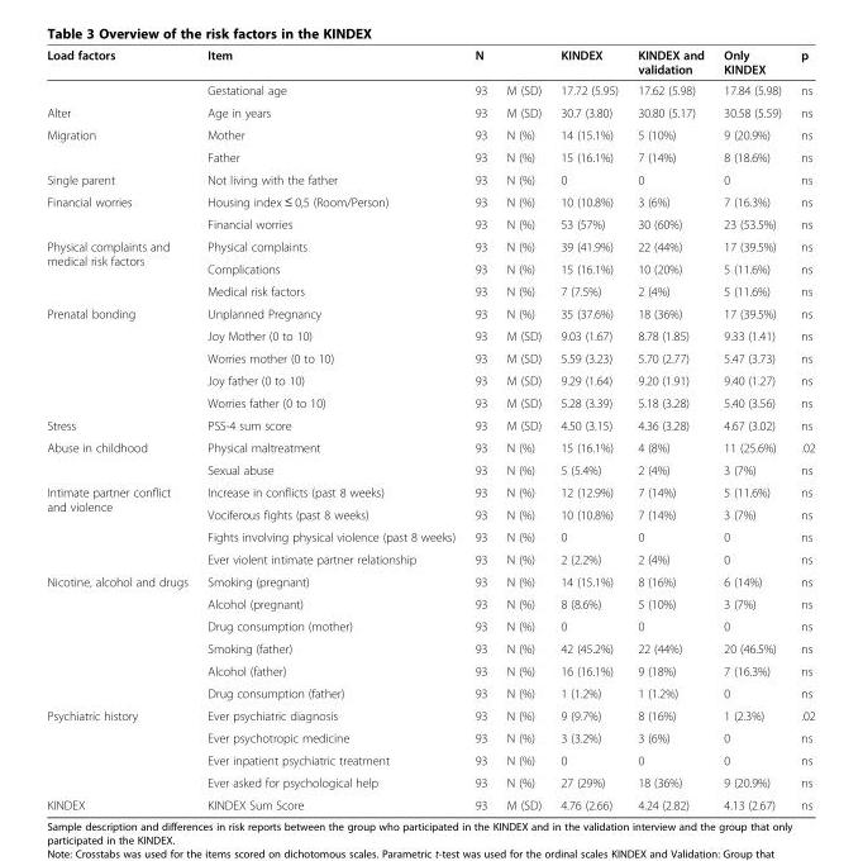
<table><thead><tr><td>Load factors</td><td>Item</td><td>N</td><td></td><td>KINDEX</td><td>KINDEX and validation</td><td>Only KINDEX</td><td>p</td></tr></thead><tbody><tr><td></td><td>Gestational age</td><td>93</td><td>M (SD)</td><td>17.72 (5.95)</td><td>17.62 (5.98)</td><td>17.84 (5.98)</td><td>ns</td></tr><tr><td>Alter</td><td>Age in years</td><td>93</td><td>M (SD)</td><td>30.7 (3.80)</td><td>30.80 (5.17)</td><td>30.58 (5.59)</td><td>ns</td></tr><tr><td rowspan="2">Migration</td><td>Mother</td><td>93</td><td>N (%)</td><td>14 (15.1%)</td><td>5 (10%)</td><td>9 (20.9%)</td><td>ns</td></tr><tr><td>Father</td><td>93</td><td>N (%)</td><td>15 (16.1%)</td><td>7 (14%)</td><td>8 (18.6%)</td><td>ns</td></tr><tr><td>Single parent</td><td>Not living with the father</td><td>93</td><td>N (%)</td><td>0</td><td>0</td><td>0</td><td>ns</td></tr><tr><td rowspan="2">Financial worries</td><td>Housing index ≤ 0,5 (Room/Person)</td><td>93</td><td>N (%)</td><td>10 (10.8%)</td><td>3 (6%)</td><td>7 (16.3%)</td><td>ns</td></tr><tr><td>Financial worries</td><td>93</td><td>N (%)</td><td>53 (57%)</td><td>30 (60%)</td><td>23 (53.5%)</td><td>ns</td></tr><tr><td rowspan="3">Physical complaints and medical risk factors</td><td>Physical complaints</td><td>93</td><td>N (%)</td><td>39 (41.9%)</td><td>22 (44%)</td><td>17 (39.5%)</td><td>ns</td></tr><tr><td>Complications</td><td>93</td><td>N (%)</td><td>15 (16.1%)</td><td>10 (20%)</td><td>5 (11.6%)</td><td>ns</td></tr><tr><td>Medical risk factors</td><td>93</td><td>N (%)</td><td>7 (7.5%)</td><td>2 (4%)</td><td>5 (11.6%)</td><td>ns</td></tr><tr><td rowspan="5">Prenatal bonding</td><td>Unplanned Pregnancy</td><td>93</td><td>N (%)</td><td>35 (37.6%)</td><td>18 (36%)</td><td>17 (39.5%)</td><td>ns</td></tr><tr><td>Joy Mother (0 to 10)</td><td>93</td><td>M (SD)</td><td>9.03 (1.67)</td><td>8.78 (1.85)</td><td>9.33 (1.41)</td><td>ns</td></tr><tr><td>Worries mother (0 to 10)</td><td>93</td><td>M (SD)</td><td>5.59 (3.23)</td><td>5.70 (2.77)</td><td>5.47 (3.73)</td><td>ns</td></tr><tr><td>Joy father (0 to 10)</td><td>93</td><td>M (SD)</td><td>9.29 (1.64)</td><td>9.20 (1.91)</td><td>9.40 (1.27)</td><td>ns</td></tr><tr><td>Worries father (0 to 10)</td><td>93</td><td>M (SD)</td><td>5.28 (3.39)</td><td>5.18 (3.28)</td><td>5.40 (3.56)</td><td>ns</td></tr><tr><td>Stress</td><td>PSS-4 sum score</td><td>93</td><td>M (SD)</td><td>4.50 (3.15)</td><td>4.36 (3.28)</td><td>4.67 (3.02)</td><td>ns</td></tr><tr><td rowspan="2">Abuse in childhood</td><td>Physical maltreatment</td><td>93</td><td>N (%)</td><td>15 (16.1%)</td><td>4 (8%)</td><td>11 (25.6%)</td><td>.02</td></tr><tr><td>Sexual abuse</td><td>93</td><td>N (%)</td><td>5 (5.4%)</td><td>2 (4%)</td><td>3 (7%)</td><td>ns</td></tr><tr><td rowspan="4">Intimate partner conflict and violence</td><td>Increase in conflicts (past 8 weeks)</td><td>93</td><td>N (%)</td><td>12 (12.9%)</td><td>7 (14%)</td><td>5 (11.6%)</td><td>ns</td></tr><tr><td>Vociferous fights (past 8 weeks)</td><td>93</td><td>N (%)</td><td>10 (10.8%)</td><td>7 (14%)</td><td>3 (7%)</td><td>ns</td></tr><tr><td>Fights involving physical violence (past 8 weeks)</td><td>93</td><td>N (%)</td><td>0</td><td>0</td><td>0</td><td>ns</td></tr><tr><td>Ever violent intimate partner relationship</td><td>93</td><td>N (%)</td><td>2 (2.2%)</td><td>2 (4%)</td><td>0</td><td>ns</td></tr><tr><td rowspan="6">Nicotine, alcohol and drugs</td><td>Smoking (pregnant)</td><td>93</td><td>N (%)</td><td>14 (15.1%)</td><td>8 (16%)</td><td>6 (14%)</td><td>ns</td></tr><tr><td>Alcohol (pregnant)</td><td>93</td><td>N (%)</td><td>8 (8.6%)</td><td>5 (10%)</td><td>3 (7%)</td><td>ns</td></tr><tr><td>Drug consumption (mother)</td><td>93</td><td>N (%)</td><td>0</td><td>0</td><td>0</td><td>ns</td></tr><tr><td>Smoking (father)</td><td>93</td><td>N (%)</td><td>42 (45.2%)</td><td>22 (44%)</td><td>20 (46.5%)</td><td>ns</td></tr><tr><td>Alcohol (father)</td><td>93</td><td>N (%)</td><td>16 (16.1%)</td><td>9 (18%)</td><td>7 (16.3%)</td><td>ns</td></tr><tr><td>Drug consumption (father)</td><td>93</td><td>N (%)</td><td>1 (1.2%)</td><td>1 (1.2%)</td><td>0</td><td>ns</td></tr><tr><td rowspan="4">Psychiatric history</td><td>Ever psychiatric diagnosis</td><td>93</td><td>N (%)</td><td>9 (9.7%)</td><td>8 (16%)</td><td>1 (2.3%)</td><td>.02</td></tr><tr><td>Ever psychotropic medicine</td><td>93</td><td>N (%)</td><td>3 (3.2%)</td><td>3 (6%)</td><td>0</td><td>ns</td></tr><tr><td>Ever inpatient psychiatric treatment</td><td>93</td><td>N (%)</td><td>0</td><td>0</td><td>0</td><td>ns</td></tr><tr><td>Ever asked for psychological help</td><td>93</td><td>N (%)</td><td>27 (29%)</td><td>18 (36%)</td><td>9 (20.9%)</td><td>ns</td></tr><tr><td>KINDEX</td><td>KINDEX Sum Score</td><td>93</td><td>M (SD)</td><td>4.76 (2.66)</td><td>4.24 (2.82)</td><td>4.13 (2.67)</td><td>ns</td></tr></tbody></table>